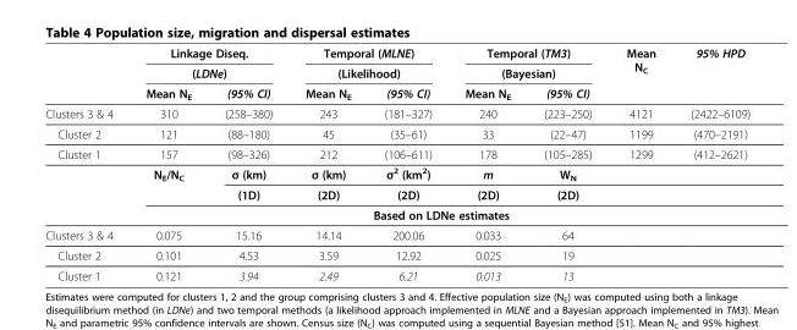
<table><thead><tr><td rowspan="3"></td><td rowspan="2" colspan="2">Linkage Diseq. (LDNe)</td><td rowspan="2" colspan="2">Temporal (MLNE) (Likelihood)</td><td rowspan="2" colspan="2">Temporal (TM3) (Bayesian)</td><td rowspan="3">Mean N<sub>C</sub></td><td rowspan="3">95% HPD</td></tr><tr></tr><tr><td>Mean N<sub>E</sub></td><td>(95% CI)</td><td>Mean N<sub>E</sub></td><td>(95% CI)</td><td>Mean N<sub>E</sub></td><td>(95% CI)</td></tr></thead><tbody><tr><td>Clusters 3 &amp; 4</td><td>310</td><td>(258–380)</td><td>243</td><td>(181–327)</td><td>240</td><td>(223–250)</td><td>4121</td><td>(2422–6109)</td></tr><tr><td>Cluster 2</td><td>121</td><td>(88–180)</td><td>45</td><td>(35–61)</td><td>33</td><td>(22–47)</td><td>1199</td><td>(470–2191)</td></tr><tr><td rowspan="4">Cluster 1</td><td>157</td><td>(98–326)</td><td>212</td><td>(106–611)</td><td>178</td><td>(105–285)</td><td>1299</td><td>(412–2621)</td></tr><tr><td rowspan="2">N<sub>E</sub>/N<sub>C</sub></td><td>σ (km)</td><td>σ (km)</td><td>σ<sup>2</sup> (km<sup>2</sup>)</td><td>m</td><td>W<sub>N</sub></td><td></td><td></td></tr><tr><td>(1D)</td><td>(2D)</td><td>(2D)</td><td>(2D)</td><td>(2D)</td><td></td><td></td></tr><tr><td colspan="6">Based on LDNe estimates</td><td></td><td></td></tr><tr><td>Clusters 3 &amp; 4</td><td>0.075</td><td>15.16</td><td>14.14</td><td>200.06</td><td>0.033</td><td>64</td><td></td><td></td></tr><tr><td>Cluster 2</td><td>0.101</td><td>4.53</td><td>3.59</td><td>12.92</td><td>0.025</td><td>19</td><td></td><td></td></tr><tr><td>Cluster 1</td><td>0.121</td><td>3.94</td><td>2.49</td><td>6.21</td><td>0.013</td><td>13</td><td></td><td></td></tr></tbody></table>